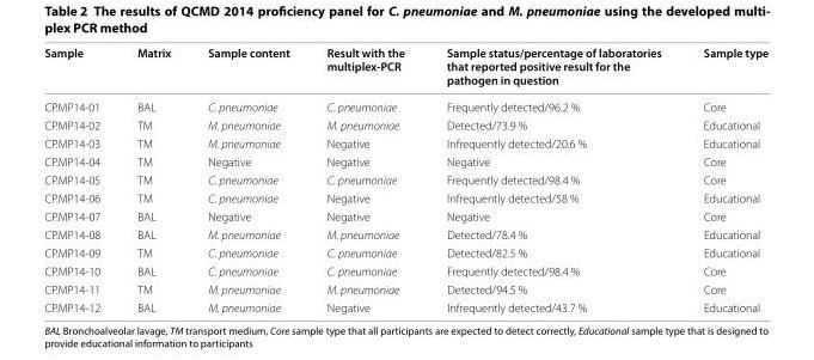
<table><thead><tr><td>Sample</td><td>Matrix</td><td>Sample content</td><td>Result with the multiplex‑PCR</td><td>Sample status/percentage of laboratories that reported positive result for the pathogen in question</td><td>Sample type</td></tr></thead><tbody><tr><td>CP.MP14-01</td><td>BAL</td><td>C. pneumoniae</td><td>C. pneumoniae</td><td>Frequently detected/96.2 %</td><td>Core</td></tr><tr><td>CP.MP14-02</td><td>TM</td><td>M. pneumoniae</td><td>M. pneumoniae</td><td>Detected/73.9 %</td><td>Educational</td></tr><tr><td>CP.MP14-03</td><td>TM</td><td>M. pneumoniae</td><td>Negative</td><td>Infrequently detected/20.6 %</td><td>Educational</td></tr><tr><td>CP.MP14-04</td><td>TM</td><td>Negative</td><td>Negative</td><td>Negative</td><td>Core</td></tr><tr><td>CP.MP14-05</td><td>TM</td><td>C. pneumoniae</td><td>C. pneumoniae</td><td>Frequently detected/98.4 %</td><td>Core</td></tr><tr><td>CP.MP14-06</td><td>TM</td><td>C. pneumoniae</td><td>Negative</td><td>Infrequently detected/58 %</td><td>Educational</td></tr><tr><td>CP.MP14-07</td><td>BAL</td><td>Negative</td><td>Negative</td><td>Negative</td><td>Core</td></tr><tr><td>CP.MP14-08</td><td>BAL</td><td>M. pneumoniae</td><td>M. pneumoniae</td><td>Detected/78.4 %</td><td>Educational</td></tr><tr><td>CP.MP14-09</td><td>TM</td><td>C. pneumoniae</td><td>C. pneumoniae</td><td>Detected/82.5 %</td><td>Educational</td></tr><tr><td>CP.MP14-10</td><td>BAL</td><td>C. pneumoniae</td><td>C. pneumoniae</td><td>Frequently detected/98.4 %</td><td>Core</td></tr><tr><td>CP.MP14-11</td><td>TM</td><td>M. pneumoniae</td><td>M. pneumoniae</td><td>Detected/94.5 %</td><td>Core</td></tr><tr><td>CP.MP14-12</td><td>BAL</td><td>M. pneumoniae</td><td>Negative</td><td>Infrequently detected/43.7 %</td><td>Educational</td></tr></tbody></table>